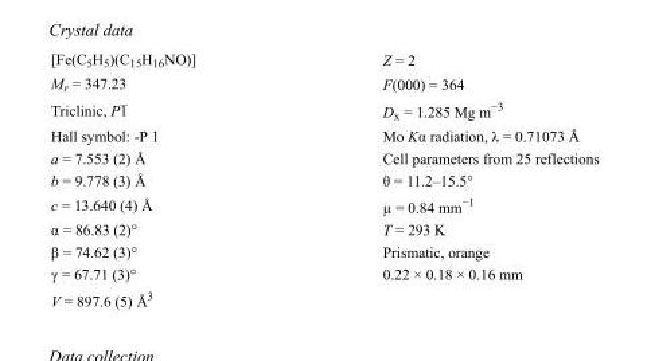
<table><tbody><tr><td>[Fe(C<sub>5</sub>H<sub>5</sub>)(C<sub>15</sub>H<sub>16</sub>NO)]</td><td>Z = 2</td></tr><tr><td>M<sub>r</sub> = 347.23</td><td>F(000) = 364</td></tr><tr><td>Triclinic, P1</td><td>D<sub>x</sub> = 1.285 Mg m<sup>−3</sup></td></tr><tr><td>Hall symbol: -P 1</td><td>Mo Kα radiation, λ = 0.71073 Å</td></tr><tr><td>a = 7.553 (2) Å</td><td>Cell parameters from 25 reflections</td></tr><tr><td>b = 9.778 (3) Å</td><td>θ = 11.2–15.5°</td></tr><tr><td>c = 13.640 (4) Å</td><td>µ = 0.84 mm<sup>−1</sup></td></tr><tr><td>α = 86.83 (2)°</td><td>T = 293 K</td></tr><tr><td>β = 74.62 (3)°</td><td>Prismatic, orange</td></tr><tr><td>γ = 67.71 (3)°</td><td>0.22 × 0.18 × 0.16 mm</td></tr><tr><td>V = 897.6 (5) Å<sup>3</sup></td><td></td></tr></tbody></table>